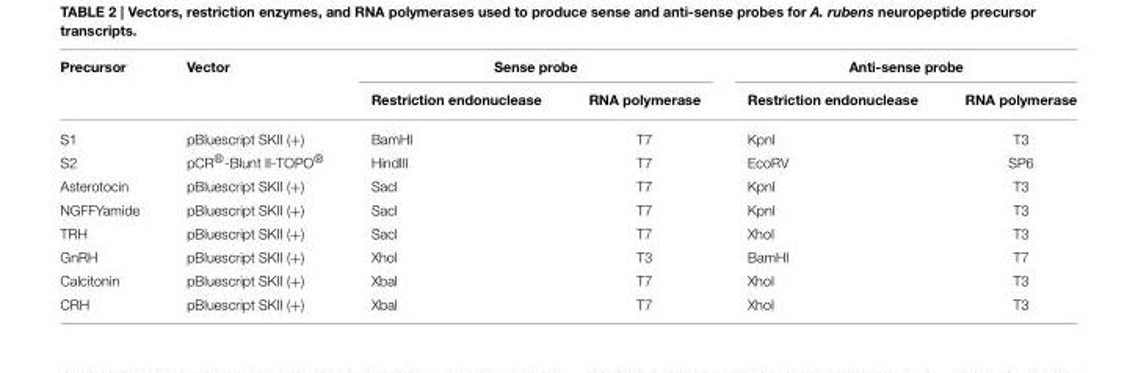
<table><thead><tr><td rowspan="2">Precursor</td><td rowspan="2">Vector</td><td colspan="2">Sense probe</td><td colspan="2">Anti-sense probe</td></tr><tr><td>Restriction endonuclease</td><td>RNA polymerase</td><td>Restriction endonuclease</td><td>RNA polymerase</td></tr></thead><tbody><tr><td>S1</td><td>pBluescript SKII (+)</td><td>BamHI</td><td>T7</td><td>KpnI</td><td>T3</td></tr><tr><td>S2</td><td>pCR®-Blunt II-TOPO®</td><td>HindIII</td><td>T7</td><td>EcoRV</td><td>SP6</td></tr><tr><td>Asterotocin</td><td>pBluescript SKII (+)</td><td>SacI</td><td>T7</td><td>KpnI</td><td>T3</td></tr><tr><td>NGFFYamide</td><td>pBluescript SKII (+)</td><td>SacI</td><td>T7</td><td>KpnI</td><td>T3</td></tr><tr><td>TRH</td><td>pBluescript SKII (+)</td><td>SacI</td><td>T7</td><td>XhoI</td><td>T3</td></tr><tr><td>GnRH</td><td>pBluescript SKII (+)</td><td>XhoI</td><td>T3</td><td>BamHI</td><td>T7</td></tr><tr><td>Calcitonin</td><td>pBluescript SKII (+)</td><td>XbaI</td><td>T7</td><td>XhoI</td><td>T3</td></tr><tr><td>CRH</td><td>pBluescript SKII (+)</td><td>XbaI</td><td>T7</td><td>XhoI</td><td>T3</td></tr></tbody></table>